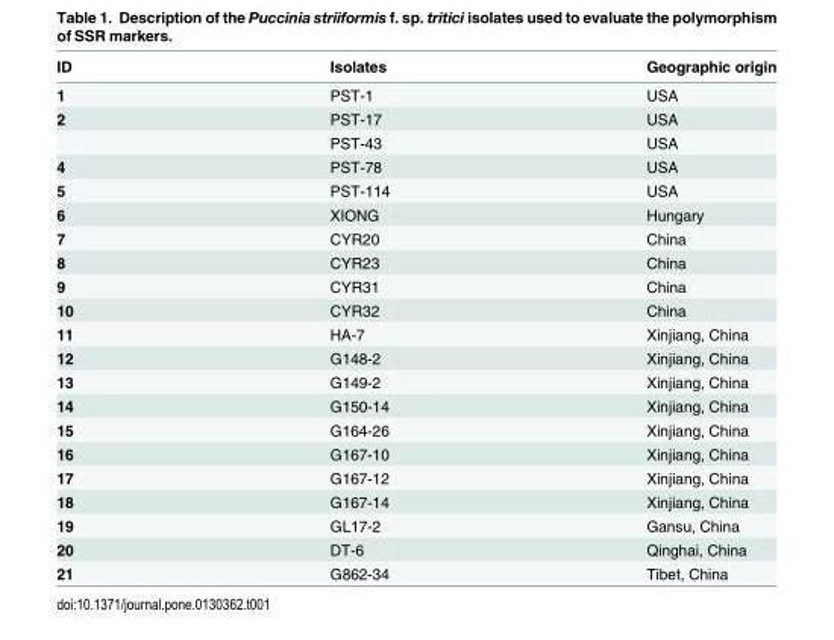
<table><thead><tr><td>ID</td><td>Isolates</td><td>Geographic origin</td></tr></thead><tbody><tr><td>1</td><td>PST-1</td><td>USA</td></tr><tr><td rowspan="2">2</td><td>PST-17</td><td>USA</td></tr><tr><td>PST-43</td><td>USA</td></tr><tr><td>4</td><td>PST-78</td><td>USA</td></tr><tr><td>5</td><td>PST-114</td><td>USA</td></tr><tr><td>6</td><td>XIONG</td><td>Hungary</td></tr><tr><td>7</td><td>CYR20</td><td>China</td></tr><tr><td>8</td><td>CYR23</td><td>China</td></tr><tr><td>9</td><td>CYR31</td><td>China</td></tr><tr><td>10</td><td>CYR32</td><td>China</td></tr><tr><td>11</td><td>HA-7</td><td>Xinjiang, China</td></tr><tr><td>12</td><td>G148-2</td><td>Xinjiang, China</td></tr><tr><td>13</td><td>G149-2</td><td>Xinjiang, China</td></tr><tr><td>14</td><td>G150-14</td><td>Xinjiang, China</td></tr><tr><td>15</td><td>G164-26</td><td>Xinjiang, China</td></tr><tr><td>16</td><td>G167-10</td><td>Xinjiang, China</td></tr><tr><td>17</td><td>G167-12</td><td>Xinjiang, China</td></tr><tr><td>18</td><td>G167-14</td><td>Xinjiang, China</td></tr><tr><td>19</td><td>GL17-2</td><td>Gansu, China</td></tr><tr><td>20</td><td>DT-6</td><td>Qinghai, China</td></tr><tr><td>21</td><td>G862-34</td><td>Tibet, China</td></tr></tbody></table>